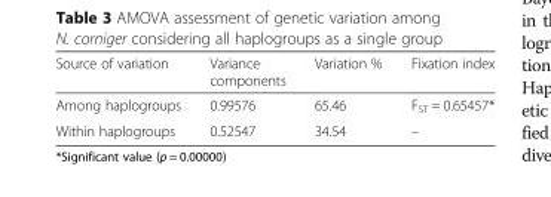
<table><thead><tr><td>Source of variation</td><td>Variance components</td><td>Variation %</td><td>Fixation index</td></tr></thead><tbody><tr><td>Among haplogroups</td><td>0.99576</td><td>65.46</td><td>F<sub>ST</sub> = 0.65457*</td></tr><tr><td>Within haplogroups</td><td>0.52547</td><td>34.54</td><td>–</td></tr></tbody></table>